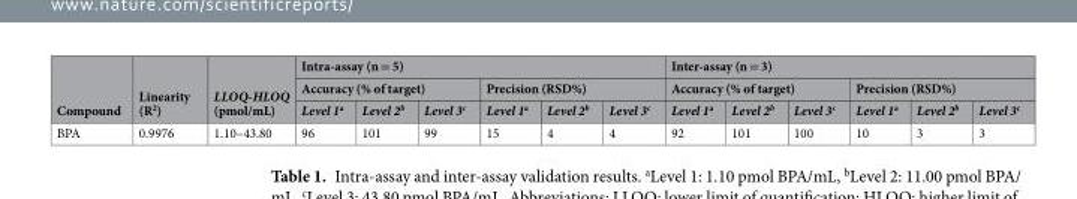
<table><thead><tr><td rowspan="3">Compound</td><td rowspan="3">Linearity (R<sup>2</sup>)</td><td rowspan="3">LLOQ-HLOQ (pmol/mL)</td><td colspan="6">Intra-assay (n = 5)</td><td colspan="6">Inter-assay (n = 3)</td></tr><tr><td colspan="3">Accuracy (% of target)</td><td colspan="3">Precision (RSD%)</td><td colspan="3">Accuracy (% of target)</td><td colspan="3">Precision (RSD%)</td></tr><tr><td>Level 1<sup>a</sup></td><td>Level 2<sup>b</sup></td><td>Level 3<sup>c</sup></td><td>Level 1<sup>a</sup></td><td>Level 2<sup>b</sup></td><td>Level 3<sup>c</sup></td><td>Level 1<sup>a</sup></td><td>Level 2<sup>b</sup></td><td>Level 3<sup>c</sup></td><td>Level 1<sup>a</sup></td><td>Level 2<sup>b</sup></td><td>Level 3<sup>c</sup></td></tr></thead><tbody><tr><td>BPA</td><td>0.9976</td><td>1.10–43.80</td><td>96</td><td>101</td><td>99</td><td>15</td><td>4</td><td>4</td><td>92</td><td>101</td><td>100</td><td>10</td><td>3</td><td>3</td></tr></tbody></table>